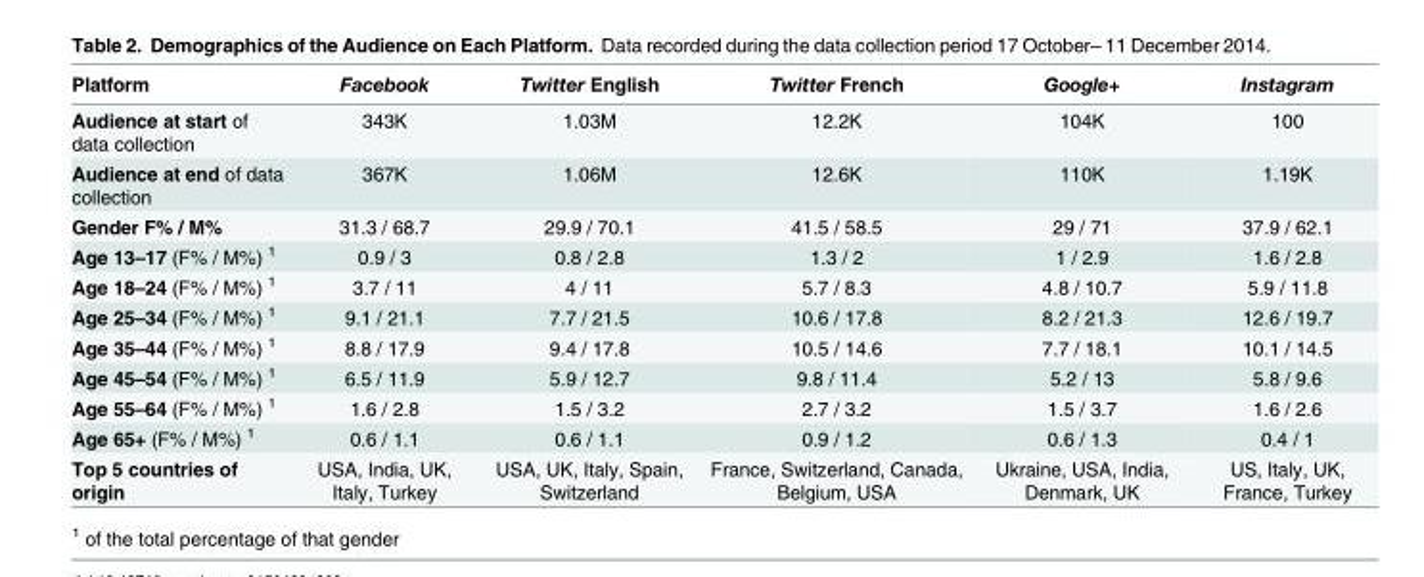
<table><thead><tr><td>Platform</td><td>Facebook</td><td>Twitter English</td><td>Twitter French</td><td>Google+</td><td>Instagram</td></tr></thead><tbody><tr><td>Audience at start of data collection</td><td>343K</td><td>1.03M</td><td>12.2K</td><td>104K</td><td>100</td></tr><tr><td>Audience at end of data collection</td><td>367K</td><td>1.06M</td><td>12.6K</td><td>110K</td><td>1.19K</td></tr><tr><td>Gender F% / M%</td><td>31.3 / 68.7</td><td>29.9 / 70.1</td><td>41.5 / 58.5</td><td>29 / 71</td><td>37.9 / 62.1</td></tr><tr><td>Age 13–17 (F% / M%) <sup>1</sup></td><td>0.9 / 3</td><td>0.8 / 2.8</td><td>1.3 / 2</td><td>1 / 2.9</td><td>1.6 / 2.8</td></tr><tr><td>Age 18–24 (F% / M%) <sup>1</sup></td><td>3.7 / 11</td><td>4 / 11</td><td>5.7 / 8.3</td><td>4.8 / 10.7</td><td>5.9 / 11.8</td></tr><tr><td>Age 25–34 (F% / M%) <sup>1</sup></td><td>9.1 / 21.1</td><td>7.7 / 21.5</td><td>10.6 / 17.8</td><td>8.2 / 21.3</td><td>12.6 / 19.7</td></tr><tr><td>Age 35–44 (F% / M%) <sup>1</sup></td><td>8.8 / 17.9</td><td>9.4 / 17.8</td><td>10.5 / 14.6</td><td>7.7 / 18.1</td><td>10.1 / 14.5</td></tr><tr><td>Age 45–54 (F% / M%) <sup>1</sup></td><td>6.5 / 11.9</td><td>5.9 / 12.7</td><td>9.8 / 11.4</td><td>5.2 / 13</td><td>5.8 / 9.6</td></tr><tr><td>Age 55–64 (F% / M%) <sup>1</sup></td><td>1.6 / 2.8</td><td>1.5 / 3.2</td><td>2.7 / 3.2</td><td>1.5 / 3.7</td><td>1.6 / 2.6</td></tr><tr><td>Age 65+ (F% / M%) <sup>1</sup></td><td>0.6 / 1.1</td><td>0.6 / 1.1</td><td>0.9 / 1.2</td><td>0.6 / 1.3</td><td>0.4 / 1</td></tr><tr><td>Top 5 countries of origin</td><td>USA, India, UK, Italy, Turkey</td><td>USA, UK, Italy, Spain, Switzerland</td><td>France, Switzerland, Canada, Belgium, USA</td><td>Ukraine, USA, India, Denmark, UK</td><td>US, Italy, UK, France, Turkey</td></tr></tbody></table>